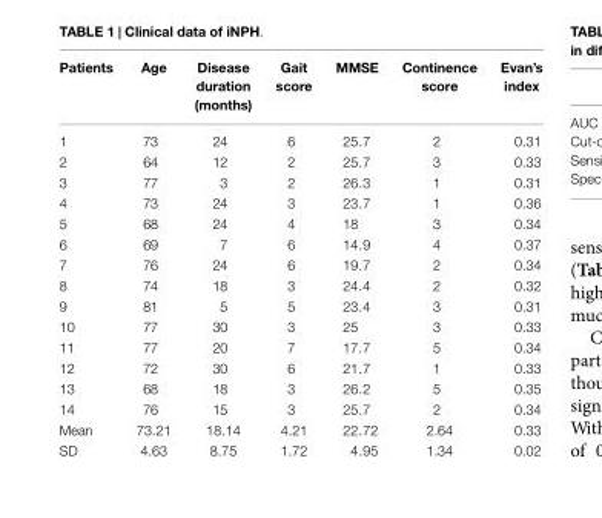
<table><thead><tr><td>Patients</td><td>Age</td><td>Disease duration (months)</td><td>Gait score</td><td>MMSE</td><td>Continence score</td><td>Evan’s index</td></tr></thead><tbody><tr><td>1</td><td>73</td><td>24</td><td>6</td><td>25.7</td><td>2</td><td>0.31</td></tr><tr><td>2</td><td>64</td><td>12</td><td>2</td><td>25.7</td><td>3</td><td>0.33</td></tr><tr><td>3</td><td>77</td><td>3</td><td>2</td><td>26.3</td><td>1</td><td>0.31</td></tr><tr><td>4</td><td>73</td><td>24</td><td>3</td><td>23.7</td><td>1</td><td>0.36</td></tr><tr><td>5</td><td>68</td><td>24</td><td>4</td><td>18</td><td>3</td><td>0.34</td></tr><tr><td>6</td><td>69</td><td>7</td><td>6</td><td>14.9</td><td>4</td><td>0.37</td></tr><tr><td>7</td><td>76</td><td>24</td><td>6</td><td>19.7</td><td>2</td><td>0.34</td></tr><tr><td>8</td><td>74</td><td>18</td><td>3</td><td>24.4</td><td>2</td><td>0.32</td></tr><tr><td>9</td><td>81</td><td>5</td><td>5</td><td>23.4</td><td>3</td><td>0.31</td></tr><tr><td>10</td><td>77</td><td>30</td><td>3</td><td>25</td><td>3</td><td>0.33</td></tr><tr><td>11</td><td>77</td><td>20</td><td>7</td><td>17.7</td><td>5</td><td>0.34</td></tr><tr><td>12</td><td>72</td><td>30</td><td>6</td><td>21.7</td><td>1</td><td>0.33</td></tr><tr><td>13</td><td>68</td><td>18</td><td>3</td><td>26.2</td><td>5</td><td>0.35</td></tr><tr><td>14</td><td>76</td><td>15</td><td>3</td><td>25.7</td><td>2</td><td>0.34</td></tr><tr><td>Mean</td><td>73.21</td><td>18.14</td><td>4.21</td><td>22.72</td><td>2.64</td><td>0.33</td></tr><tr><td>SD</td><td>4.63</td><td>8.75</td><td>1.72</td><td>4.95</td><td>1.34</td><td>0.02</td></tr></tbody></table>